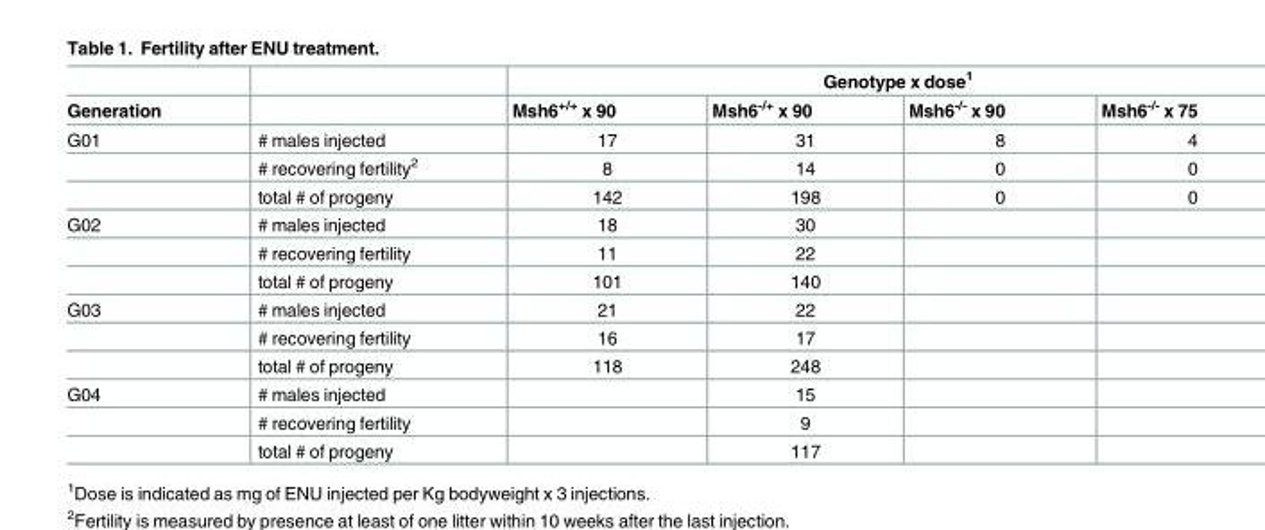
<table><thead><tr><td rowspan="2">Generation</td><td rowspan="2"></td><td colspan="4">Genotype x dose<sup>1</sup></td></tr><tr><td>Msh6<sup>+/+</sup> x 90</td><td>Msh6<sup>-/+</sup> x 90</td><td>Msh6<sup>-/-</sup> x 90</td><td>Msh6<sup>-/-</sup> x 75</td></tr></thead><tbody><tr><td rowspan="3">G01</td><td># males injected</td><td>17</td><td>31</td><td>8</td><td>4</td></tr><tr><td># recovering fertility<sup>2</sup></td><td>8</td><td>14</td><td>0</td><td>0</td></tr><tr><td>total # of progeny</td><td>142</td><td>198</td><td>0</td><td>0</td></tr><tr><td rowspan="3">G02</td><td># males injected</td><td>18</td><td>30</td><td></td><td></td></tr><tr><td># recovering fertility</td><td>11</td><td>22</td><td></td><td></td></tr><tr><td>total # of progeny</td><td>101</td><td>140</td><td></td><td></td></tr><tr><td rowspan="3">G03</td><td># males injected</td><td>21</td><td>22</td><td></td><td></td></tr><tr><td># recovering fertility</td><td>16</td><td>17</td><td></td><td></td></tr><tr><td>total # of progeny</td><td>118</td><td>248</td><td></td><td></td></tr><tr><td rowspan="3">G04</td><td># males injected</td><td></td><td>15</td><td></td><td></td></tr><tr><td># recovering fertility</td><td></td><td>9</td><td></td><td></td></tr><tr><td>total # of progeny</td><td></td><td>117</td><td></td><td></td></tr></tbody></table>